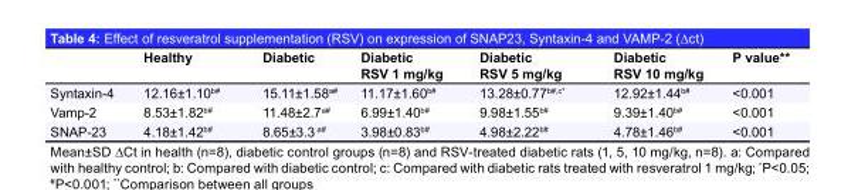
<table><thead><tr><td></td><td>Healthy</td><td>Diabetic</td><td>Diabetic RSV 1 mg/kg</td><td>Diabetic RSV 5 mg/kg</td><td>Diabetic RSV 10 mg/kg</td><td>P value**</td></tr></thead><tbody><tr><td>Syntaxin-4</td><td>12.16±1.10<sup>b#</sup></td><td>15.11±1.58<sup>a#</sup></td><td>11.17±1.60<sup>b#</sup></td><td>13.28±0.77<sup>b#,c*</sup></td><td>12.92±1.44<sup>b#</sup></td><td>&lt;0.001</td></tr><tr><td>Vamp-2</td><td>8.53±1.82<sup>b#</sup></td><td>11.48±2.7<sup>a#</sup></td><td>6.99±1.40<sup>b#</sup></td><td>9.98±1.55<sup>b#</sup></td><td>9.39±1.40<sup>b#</sup></td><td>&lt;0.001</td></tr><tr><td>SNAP-23</td><td>4.18±1.42<sup>b#</sup></td><td>8.65±3.3 <sup>a#</sup></td><td>3.98±0.83<sup>b#</sup></td><td>4.98±2.22<sup>b#</sup></td><td>4.78±1.46<sup>b#</sup></td><td>&lt;0.001</td></tr></tbody></table>